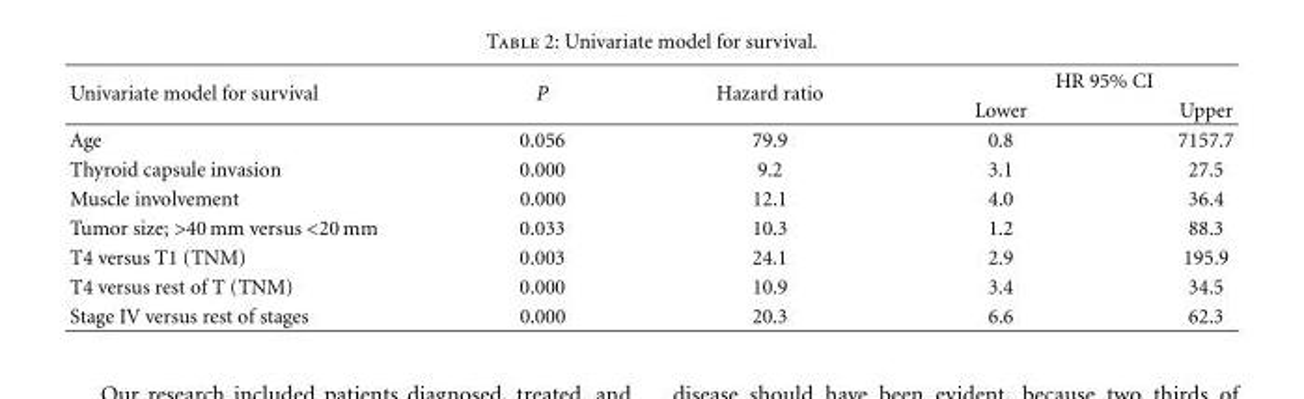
<table><thead><tr><td rowspan="2">Univariate model for survival</td><td rowspan="2">P</td><td rowspan="2">Hazard ratio</td><td colspan="2">HR 95% CI</td></tr><tr><td>Lower</td><td>Upper</td></tr></thead><tbody><tr><td>Age</td><td>0.056</td><td>79.9</td><td>0.8</td><td>7157.7</td></tr><tr><td>Thyroid capsule invasion</td><td>0.000</td><td>9.2</td><td>3.1</td><td>27.5</td></tr><tr><td>Muscle involvement</td><td>0.000</td><td>12.1</td><td>4.0</td><td>36.4</td></tr><tr><td>Tumor size; &gt;40 mm versus &lt;20 mm</td><td>0.033</td><td>10.3</td><td>1.2</td><td>88.3</td></tr><tr><td>T4 versus T1 (TNM)</td><td>0.003</td><td>24.1</td><td>2.9</td><td>195.9</td></tr><tr><td>T4 versus rest of T (TNM)</td><td>0.000</td><td>10.9</td><td>3.4</td><td>34.5</td></tr><tr><td>Stage IV versus rest of stages</td><td>0.000</td><td>20.3</td><td>6.6</td><td>62.3</td></tr></tbody></table>